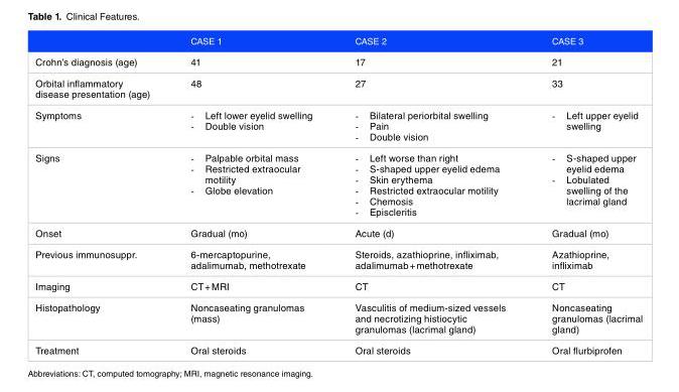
<table><thead><tr><td></td><td>CASE 1</td><td>CASE 2</td><td>CASE 3</td></tr></thead><tbody><tr><td>Crohn’s diagnosis (age)</td><td>41</td><td>17</td><td>21</td></tr><tr><td>Orbital inflammatory disease presentation (age)</td><td>48</td><td>27</td><td>33</td></tr><tr><td>Symptoms</td><td>- Left lower eyelid swelling - Double vision</td><td>- Bilateral periorbital swelling - Pain - Double vision</td><td>- Left upper eyelid swelling</td></tr><tr><td>Signs</td><td>- Palpable orbital mass - Restricted extraocular motility - Globe elevation</td><td>- Left worse than right - S-shaped upper eyelid edema - Skin erythema - Restricted extraocular motility - Chemosis - Episcleritis</td><td>- S-shaped upper eyelid edema - Lobulated swelling of the lacrimal gland</td></tr><tr><td>Onset</td><td>Gradual (mo)</td><td>Acute (d)</td><td>Gradual (mo)</td></tr><tr><td>Previous immunosuppr.</td><td>6-mercaptopurine, adalimumab, methotrexate</td><td>Steroids, azathioprine, infliximab, adalimumab + methotrexate</td><td>Azathioprine, infliximab</td></tr><tr><td>Imaging</td><td>CT + MRI</td><td>CT</td><td>CT</td></tr><tr><td>Histopathology</td><td>Noncaseating granulomas (mass)</td><td>Vasculitis of medium-sized vessels and necrotizing histiocytic granulomas (lacrimal gland)</td><td>Noncaseating granulomas (lacrimal gland)</td></tr><tr><td>Treatment</td><td>Oral steroids</td><td>Oral steroids</td><td>Oral flurbiprofen</td></tr></tbody></table>